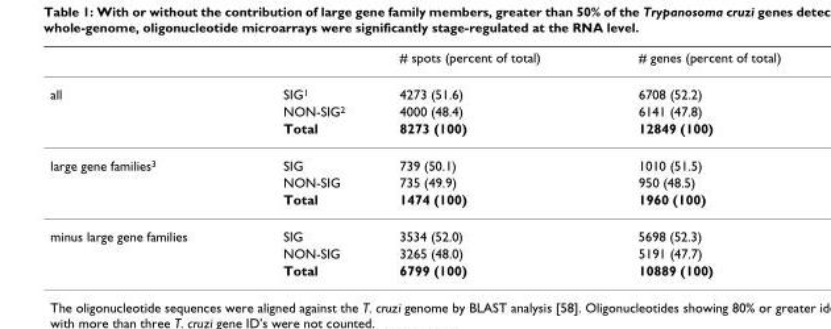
<table><thead><tr><td></td><td></td><td># spots (percent of total)</td><td># genes (percent of total)</td></tr></thead><tbody><tr><td rowspan="3">all</td><td>SIG<sup>1</sup></td><td>4273 (51.6)</td><td>6708 (52.2)</td></tr><tr><td>NON-SIG<sup>2</sup></td><td>4000 (48.4)</td><td>6141 (47.8)</td></tr><tr><td>Total</td><td>8273 (100)</td><td>12849 (100)</td></tr><tr><td rowspan="3">large gene families<sup>3</sup></td><td>SIG</td><td>739 (50.1)</td><td>1010 (51.5)</td></tr><tr><td>NON-SIG</td><td>735 (49.9)</td><td>950 (48.5)</td></tr><tr><td>Total</td><td>1474 (100)</td><td>1960 (100)</td></tr><tr><td rowspan="3">minus large gene families</td><td>SIG</td><td>3534 (52.0)</td><td>5698 (52.3)</td></tr><tr><td>NON-SIG</td><td>3265 (48.0)</td><td>5191 (47.7)</td></tr><tr><td>Total</td><td>6799 (100)</td><td>10889 (100)</td></tr></tbody></table>